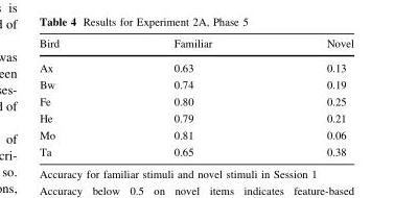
<table><thead><tr><td>Bird</td><td>Familiar</td><td>Novel</td></tr></thead><tbody><tr><td>Ax</td><td>0.63</td><td>0.13</td></tr><tr><td>Bw</td><td>0.74</td><td>0.19</td></tr><tr><td>Fe</td><td>0.80</td><td>0.25</td></tr><tr><td>He</td><td>0.79</td><td>0.21</td></tr><tr><td>Mo</td><td>0.81</td><td>0.06</td></tr><tr><td>Ta</td><td>0.65</td><td>0.38</td></tr></tbody></table>